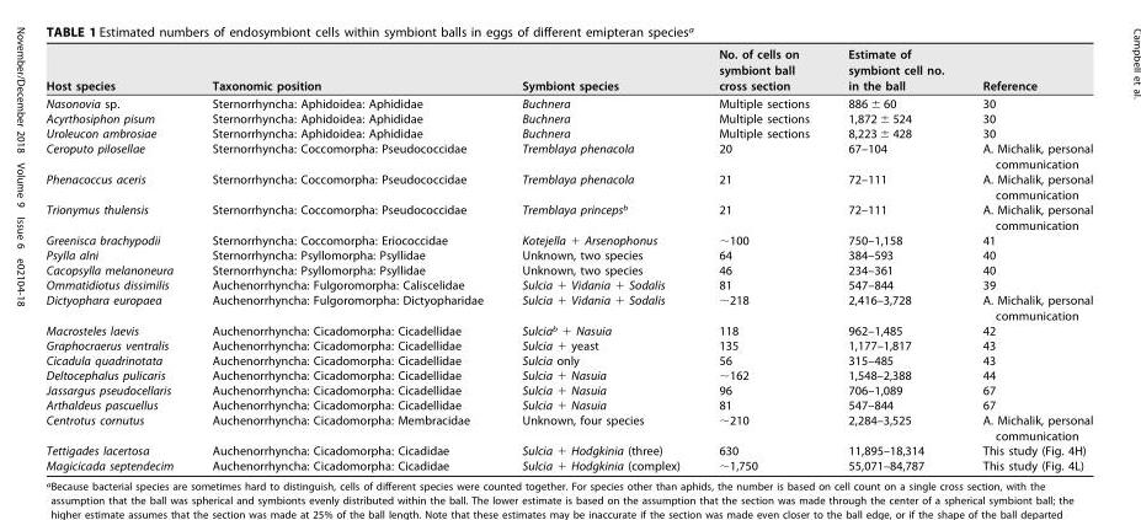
<table><thead><tr><td>Host species</td><td>Taxonomic position</td><td>Symbiont species</td><td>No. of cells on symbiont ball cross section</td><td>Estimate of symbiont cell no. in the ball</td><td>Reference</td></tr></thead><tbody><tr><td>Nasonovia sp.</td><td>Sternorrhyncha: Aphidoidea: Aphididae</td><td>Buchnera</td><td>Multiple sections</td><td>886 ± 60</td><td>30</td></tr><tr><td>Acyrthosiphon pisum</td><td>Sternorrhyncha: Aphidoidea: Aphididae</td><td>Buchnera</td><td>Multiple sections</td><td>1,872 ± 524</td><td>30</td></tr><tr><td>Uroleucon ambrosiae</td><td>Sternorrhyncha: Aphidoidea: Aphididae</td><td>Buchnera</td><td>Multiple sections</td><td>8,223 ± 428</td><td>30</td></tr><tr><td>Ceroputo pilosellae</td><td>Sternorrhyncha: Coccomorpha: Pseudococcidae</td><td>Tremblaya phenacola</td><td>20</td><td>67–104</td><td>A. Michalik, personal communication</td></tr><tr><td>Phenacoccus aceris</td><td>Sternorrhyncha: Coccomorpha: Pseudococcidae</td><td>Tremblaya phenacola</td><td>21</td><td>72–111</td><td>A. Michalik, personal communication</td></tr><tr><td>Trionymus thulensis</td><td>Sternorrhyncha: Coccomorpha: Pseudococcidae</td><td>Tremblaya princeps<sup>b</sup></td><td>21</td><td>72–111</td><td>A. Michalik, personal communication</td></tr><tr><td>Greenisca brachypodii</td><td>Sternorrhyncha: Coccomorpha: Eriococcidae</td><td>Kotejella + Arsenophonus</td><td>∼100</td><td>750–1,158</td><td>41</td></tr><tr><td>Psylla alni</td><td>Sternorrhyncha: Psyllomorpha: Psyllidae</td><td>Unknown, two species</td><td>64</td><td>384–593</td><td>40</td></tr><tr><td>Cacopsylla melanoneura</td><td>Sternorrhyncha: Psyllomorpha: Psyllidae</td><td>Unknown, two species</td><td>46</td><td>234–361</td><td>40</td></tr><tr><td>Ommatidiotus dissimilis</td><td>Auchenorrhyncha: Fulgoromorpha: Caliscelidae</td><td>Sulcia + Vidania + Sodalis</td><td>81</td><td>547–844</td><td>39</td></tr><tr><td>Dictyophara europaea</td><td>Auchenorrhyncha: Fulgoromorpha: Dictyopharidae</td><td>Sulcia + Vidania + Sodalis</td><td>∼218</td><td>2,416–3,728</td><td>A. Michalik, personal communication</td></tr><tr><td>Macrosteles laevis</td><td>Auchenorrhyncha: Cicadomorpha: Cicadellidae</td><td>Sulcia<sup>b</sup> + Nasuia</td><td>118</td><td>962–1,485</td><td>42</td></tr><tr><td>Graphocraerus ventralis</td><td>Auchenorrhyncha: Cicadomorpha: Cicadellidae</td><td>Sulcia + yeast</td><td>135</td><td>1,177–1,817</td><td>43</td></tr><tr><td>Cicadula quadrinotata</td><td>Auchenorrhyncha: Cicadomorpha: Cicadellidae</td><td>Sulcia only</td><td>56</td><td>315–485</td><td>43</td></tr><tr><td>Deltocephalus pulicaris</td><td>Auchenorrhyncha: Cicadomorpha: Cicadellidae</td><td>Sulcia + Nasuia</td><td>∼162</td><td>1,548–2,388</td><td>44</td></tr><tr><td>Jassargus pseudocellaris</td><td>Auchenorrhyncha: Cicadomorpha: Cicadellidae</td><td>Sulcia + Nasuia</td><td>96</td><td>706–1,089</td><td>67</td></tr><tr><td>Arthaldeus pascuellus</td><td>Auchenorrhyncha: Cicadomorpha: Cicadellidae</td><td>Sulcia + Nasuia</td><td>81</td><td>547–844</td><td>67</td></tr><tr><td>Centrotus cornutus</td><td>Auchenorrhyncha: Cicadomorpha: Membracidae</td><td>Unknown, four species</td><td>∼210</td><td>2,284–3,525</td><td>A. Michalik, personal communication</td></tr><tr><td>Tettigades lacertosa</td><td>Auchenorrhyncha: Cicadomorpha: Cicadidae</td><td>Sulcia + Hodgkinia (three)</td><td>630</td><td>11,895–18,314</td><td>This study (Fig. 4H)</td></tr><tr><td>Magicicada septendecim</td><td>Auchenorrhyncha: Cicadomorpha: Cicadidae</td><td>Sulcia + Hodgkinia (complex)</td><td>∼1,750</td><td>55,071–84,787</td><td>This study (Fig. 4L)</td></tr></tbody></table>